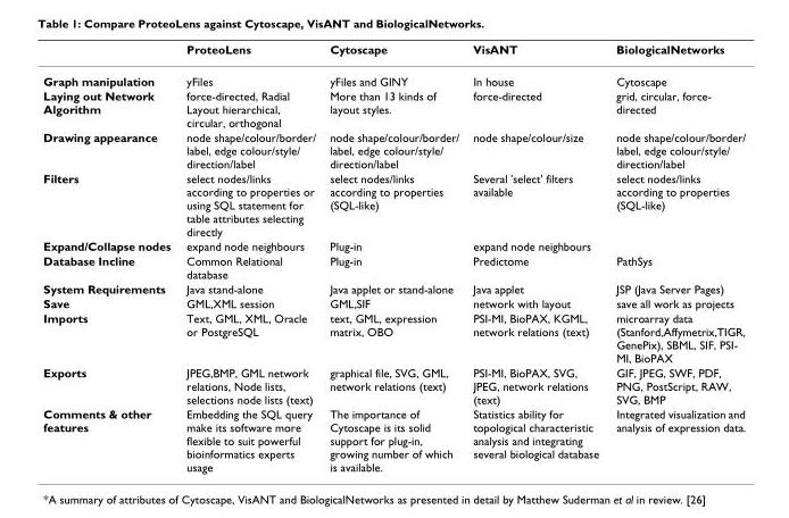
<table><thead><tr><td></td><td>ProteoLens</td><td>Cytoscape</td><td>VisANT</td><td>BiologicalNetworks</td></tr></thead><tbody><tr><td>Graph manipulation</td><td>yFiles</td><td>yFiles and GINY</td><td>In house</td><td>Cytoscape</td></tr><tr><td>Laying out Network Algorithm</td><td>force-directed, Radial Layout hierarchical, circular, orthogonal</td><td>More than 13 kinds of layout styles.</td><td>force-directed</td><td>grid, circular, force- directed</td></tr><tr><td>Drawing appearance</td><td>node shape/colour/border/ label, edge colour/style/ direction/label</td><td>node shape/colour/border/ label, edge colour/style/ direction/label</td><td>node shape/colour/size</td><td>node shape/colour/border/ label, edge colour/style/ direction/label</td></tr><tr><td>Filters</td><td>select nodes/links according to properties or using SQL statement for table attributes selecting directly</td><td>select nodes/links according to properties (SQL-like)</td><td>Several &#x27;select&#x27; filters available</td><td>select nodes/links according to properties (SQL-like)</td></tr><tr><td>Expand/Collapse nodes</td><td>expand node neighbours</td><td>Plug-in</td><td>expand node neighbours</td><td></td></tr><tr><td>Database Incline</td><td>Common Relational database</td><td>Plug-in</td><td>Predictome</td><td>PathSys</td></tr><tr><td>System Requirements</td><td>Java stand-alone</td><td>Java applet or stand-alone</td><td>Java applet</td><td>JSP (Java Server Pages)</td></tr><tr><td>Save</td><td>GML,XML session</td><td>GML,SIF</td><td>network with layout</td><td>save all work as projects</td></tr><tr><td>Imports</td><td>Text, GML, XML, Oracle or PostgreSQL</td><td>text, GML, expression matrix, OBO</td><td>PSI-MI, BioPAX, KGML, network relations (text)</td><td>microarray data (Stanford,Affymetrix,TIGR, GenePix), SBML, SIF, PSI- MI, BioPAX</td></tr><tr><td>Exports</td><td>JPEG,BMP, GML network relations, Node lists, selections node lists (text)</td><td>graphical file, SVG, GML, network relations (text)</td><td>PSI-MI, BioPAX, SVG, JPEG, network relations (text)</td><td>GIF, JPEG, SWF, PDF, PNG, PostScript, RAW, SVG, BMP</td></tr><tr><td>Comments &amp; other features</td><td>Embedding the SQL query make its software more flexible to suit powerful bioinformatics experts usage</td><td>The importance of Cytoscape is its solid support for plug-in, growing number of which is available.</td><td>Statistics ability for topological characteristic analysis and integrating several biological database</td><td>Integrated visualization and analysis of expression data.</td></tr></tbody></table>